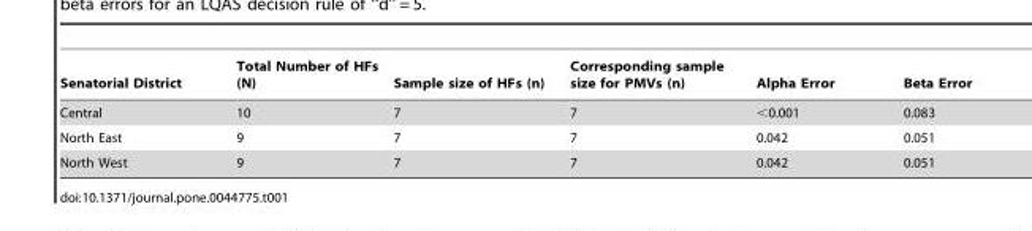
<table><thead><tr><td>Senatorial District</td><td>Total Number of HFs (N)</td><td>Sample size of HFs (n)</td><td>Corresponding sample size for PMVs (n)</td><td>Alpha Error</td><td>Beta Error</td></tr></thead><tbody><tr><td>Central</td><td>10</td><td>7</td><td>7</td><td>&lt;0.001</td><td>0.083</td></tr><tr><td>North East</td><td>9</td><td>7</td><td>7</td><td>0.042</td><td>0.051</td></tr><tr><td>North West</td><td>9</td><td>7</td><td>7</td><td>0.042</td><td>0.051</td></tr></tbody></table>